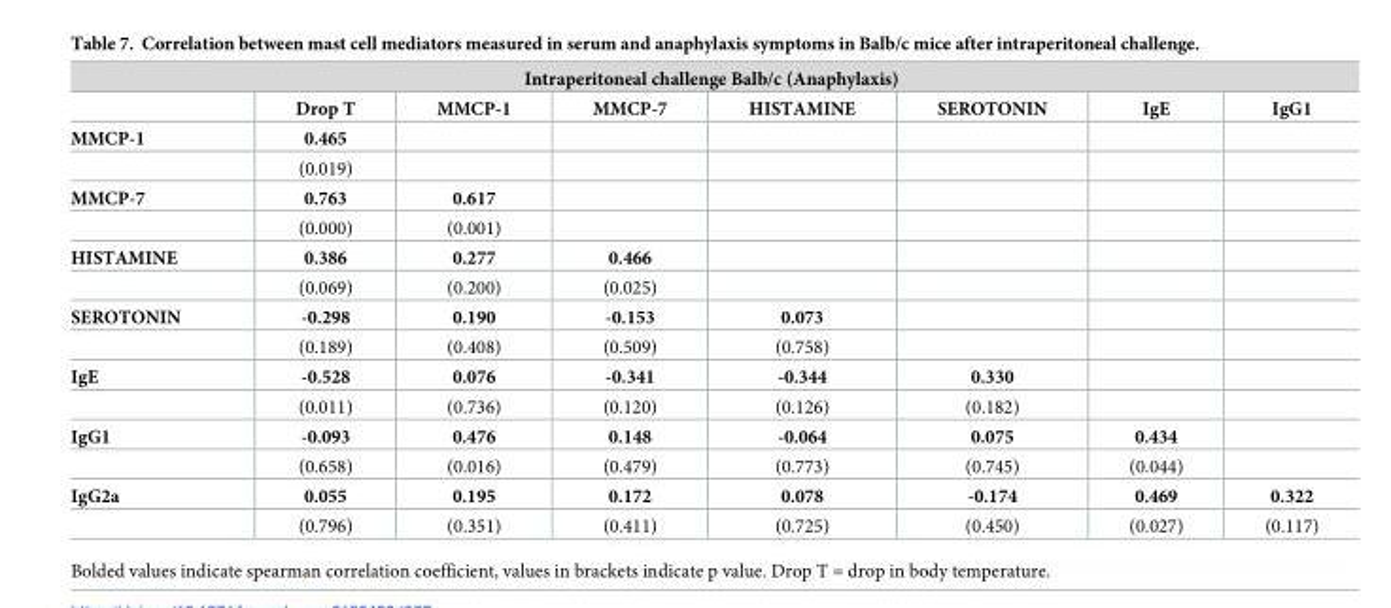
<table><thead><tr><td colspan="8">Intraperitoneal challenge Balb/c (Anaphylaxis)</td></tr><tr><td></td><td>Drop T</td><td>MMCP-1</td><td>MMCP-7</td><td>HISTAMINE</td><td>SEROTONIN</td><td>IgE</td><td>IgG1</td></tr></thead><tbody><tr><td rowspan="2">MMCP-1</td><td>0.465</td><td></td><td></td><td></td><td></td><td></td><td></td></tr><tr><td>(0.019)</td><td></td><td></td><td></td><td></td><td></td><td></td></tr><tr><td rowspan="2">MMCP-7</td><td>0.763</td><td>0.617</td><td></td><td></td><td></td><td></td><td></td></tr><tr><td>(0.000)</td><td>(0.001)</td><td></td><td></td><td></td><td></td><td></td></tr><tr><td rowspan="2">HISTAMINE</td><td>0.386</td><td>0.277</td><td>0.466</td><td></td><td></td><td></td><td></td></tr><tr><td>(0.069)</td><td>(0.200)</td><td>(0.025)</td><td></td><td></td><td></td><td></td></tr><tr><td rowspan="2">SEROTONIN</td><td>-0.298</td><td>0.190</td><td>-0.153</td><td>0.073</td><td></td><td></td><td></td></tr><tr><td>(0.189)</td><td>(0.408)</td><td>(0.509)</td><td>(0.758)</td><td></td><td></td><td></td></tr><tr><td rowspan="2">IgE</td><td>-0.528</td><td>0.076</td><td>-0.341</td><td>-0.344</td><td>0.330</td><td></td><td></td></tr><tr><td>(0.011)</td><td>(0.736)</td><td>(0.120)</td><td>(0.126)</td><td>(0.182)</td><td></td><td></td></tr><tr><td rowspan="2">IgG1</td><td>-0.093</td><td>0.476</td><td>0.148</td><td>-0.064</td><td>0.075</td><td>0.434</td><td></td></tr><tr><td>(0.658)</td><td>(0.016)</td><td>(0.479)</td><td>(0.773)</td><td>(0.745)</td><td>(0.044)</td><td></td></tr><tr><td rowspan="2">IgG2a</td><td>0.055</td><td>0.195</td><td>0.172</td><td>0.078</td><td>-0.174</td><td>0.469</td><td>0.322</td></tr><tr><td>(0.796)</td><td>(0.351)</td><td>(0.411)</td><td>(0.725)</td><td>(0.450)</td><td>(0.027)</td><td>(0.117)</td></tr></tbody></table>